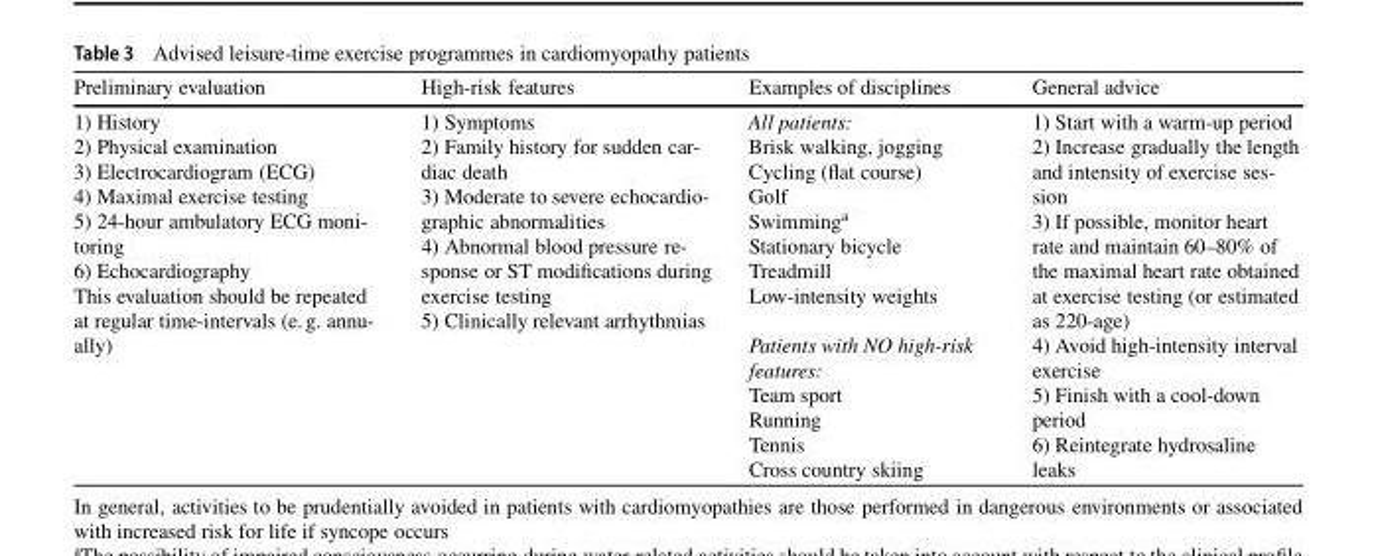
<table><thead><tr><td>Preliminary evaluation</td><td>High-risk features</td><td>Examples of disciplines</td><td>General advice</td></tr></thead><tbody><tr><td>1) History 2) Physical examination 3) Electrocardiogram (ECG) 4) Maximal exercise testing 5) 24-hour ambulatory ECG moni- toring 6) Echocardiography This evaluation should be repeated at regular time-intervals (e.g. annu- ally)</td><td>1) Symptoms 2) Family history for sudden car- diac death 3) Moderate to severe echocardio- graphic abnormalities 4) Abnormal blood pressure re- sponse or ST modifications during exercise testing 5) Clinically relevant arrhythmias</td><td>All patients: Brisk walking, jogging Cycling (flat course) Golf Swimming<sup>a</sup> Stationary bicycle Treadmill Low-intensity weights Patients with NO high-risk features: Team sport Running Tennis Cross country skiing</td><td>1) Start with a warm-up period 2) Increase gradually the length and intensity of exercise ses- sion 3) If possible, monitor heart rate and maintain 60–80% of the maximal heart rate obtained at exercise testing (or estimated as 220-age) 4) Avoid high-intensity interval exercise 5) Finish with a cool-down period 6) Reintegrate hydrosaline leaks</td></tr></tbody></table>